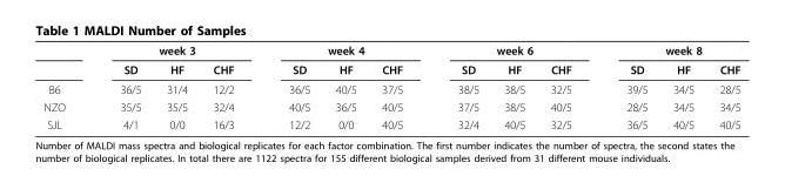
<table><thead><tr><td rowspan="2"></td><td colspan="3">week 3</td><td colspan="3">week 4</td><td colspan="3">week 6</td><td colspan="3">week 8</td></tr><tr><td>SD</td><td>HF</td><td>CHF</td><td>SD</td><td>HF</td><td>CHF</td><td>SD</td><td>HF</td><td>CHF</td><td>SD</td><td>HF</td><td>CHF</td></tr></thead><tbody><tr><td>B6</td><td>36/5</td><td>31/4</td><td>12/2</td><td>36/5</td><td>40/5</td><td>37/5</td><td>38/5</td><td>38/5</td><td>32/5</td><td>39/5</td><td>34/5</td><td>28/5</td></tr><tr><td>NZO</td><td>35/5</td><td>35/5</td><td>32/4</td><td>40/5</td><td>36/5</td><td>40/5</td><td>37/5</td><td>38/5</td><td>40/5</td><td>28/5</td><td>34/5</td><td>34/5</td></tr><tr><td>SJL</td><td>4/1</td><td>0/0</td><td>16/3</td><td>12/2</td><td>0/0</td><td>40/5</td><td>32/4</td><td>40/5</td><td>32/5</td><td>36/5</td><td>40/5</td><td>40/5</td></tr></tbody></table>